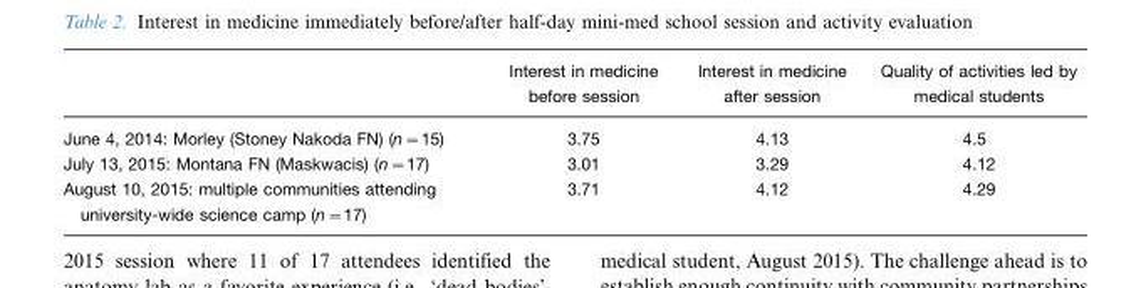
<table><thead><tr><td></td><td>Interest in medicine before session</td><td>Interest in medicine after session</td><td>Quality of activities led by medical students</td></tr></thead><tbody><tr><td>June 4, 2014: Morley (Stoney Nakoda FN) (n=15)</td><td>3.75</td><td>4.13</td><td>4.5</td></tr><tr><td>July 13, 2015: Montana FN (Maskwacis) (n=17)</td><td>3.01</td><td>3.29</td><td>4.12</td></tr><tr><td>August 10, 2015: multiple communities attending university-wide science camp (n=17)</td><td>3.71</td><td>4.12</td><td>4.29</td></tr></tbody></table>